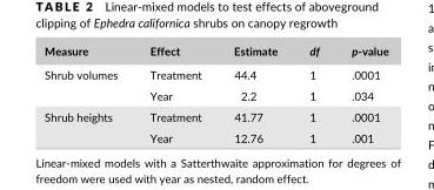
<table><thead><tr><td>Measure</td><td>Effect</td><td>Estimate</td><td>df</td><td>p- value</td></tr></thead><tbody><tr><td rowspan="2">Shrub volumes</td><td>Treatment</td><td>44.4</td><td>1</td><td>.0001</td></tr><tr><td>Year</td><td>2.2</td><td>1</td><td>.034</td></tr><tr><td rowspan="2">Shrub heights</td><td>Treatment</td><td>41.77</td><td>1</td><td>.0001</td></tr><tr><td>Year</td><td>12.76</td><td>1</td><td>.001</td></tr></tbody></table>